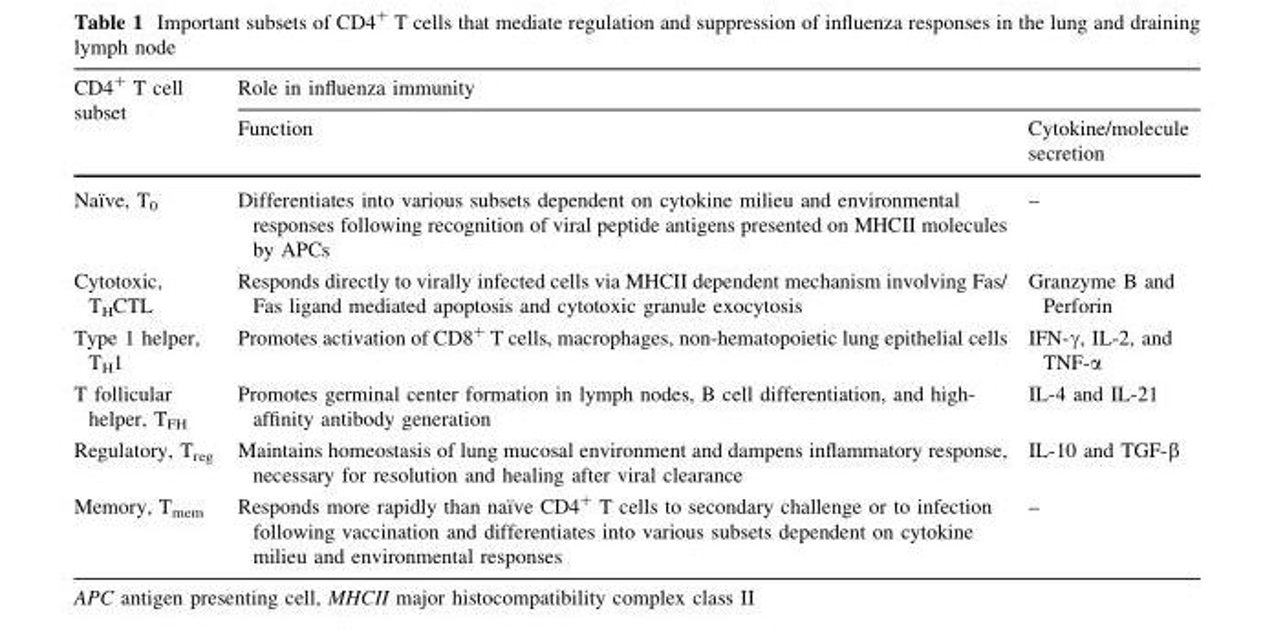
<table><thead><tr><td rowspan="2">CD4<sup>+</sup> T cell subset</td><td colspan="2">Role in influenza immunity</td></tr><tr><td>Function</td><td>Cytokine/molecule secretion</td></tr></thead><tbody><tr><td>Naı¨ve, T0</td><td>Differentiates into various subsets dependent on cytokine milieu and environmental responses following recognition of viral peptide antigens presented on MHCII molecules by APCs</td><td>–</td></tr><tr><td>Cytotoxic, T<sub>H</sub>CTL</td><td>Responds directly to virally infected cells via MHCII dependent mechanism involving Fas/ Fas ligand mediated apoptosis and cytotoxic granule exocytosis</td><td>Granzyme B and Perforin</td></tr><tr><td>Type 1 helper, T<sub>H</sub>1</td><td>Promotes activation of CD8<sup>+</sup> T cells, macrophages, non-hematopoietic lung epithelial cells</td><td>IFN-γ, IL-2, and TNF-α</td></tr><tr><td>T follicular helper, T<sub>FH</sub></td><td>Promotes germinal center formation in lymph nodes, B cell differentiation, and high- affinity antibody generation</td><td>IL-4 and IL-21</td></tr><tr><td>Regulatory, T<sub>reg</sub></td><td>Maintains homeostasis of lung mucosal environment and dampens inflammatory response, necessary for resolution and healing after viral clearance</td><td>IL-10 and TGF-β</td></tr><tr><td>Memory, T<sub>mem</sub></td><td>Responds more rapidly than naı¨ve CD4? T cells to secondary challenge or to infection following vaccination and differentiates into various subsets dependent on cytokine milieu and environmental responses</td><td>–</td></tr></tbody></table>